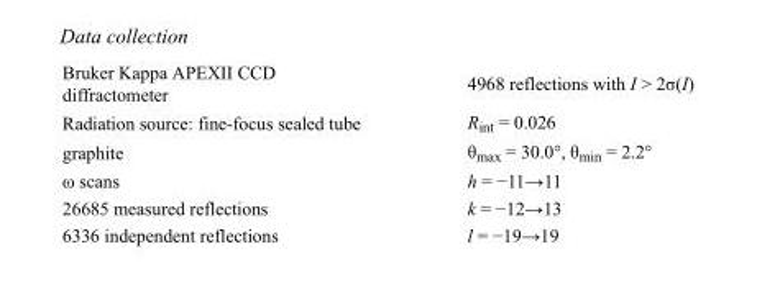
<table><tbody><tr><td>Bruker Kappa APEXII CCD diffractometer</td><td>4968 reflections with I &gt; 2σ(I)</td></tr><tr><td>Radiation source: fine-focus sealed tube</td><td>R<sub>int</sub> = 0.026</td></tr><tr><td>graphite</td><td>θ<sub>max</sub> = 30.0°, θ<sub>min</sub> = 2.2°</td></tr><tr><td>ω scans</td><td>h = −11→11</td></tr><tr><td>26685 measured reflections</td><td>k = −12→13</td></tr><tr><td>6336 independent reflections</td><td>l = −19→19</td></tr></tbody></table>